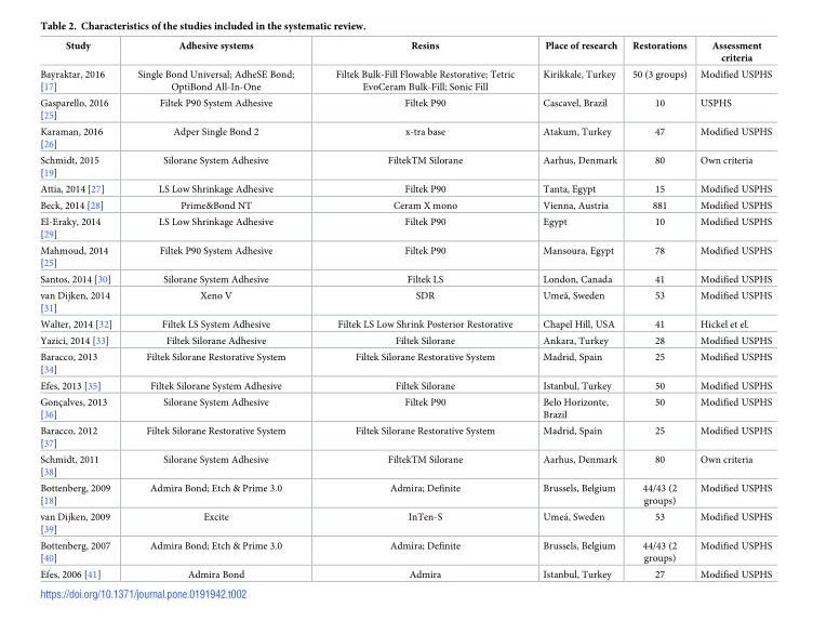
<table><thead><tr><td>Study</td><td>Adhesive systems</td><td>Resins</td><td>Place of research</td><td>Restorations</td><td>Assessment criteria</td></tr></thead><tbody><tr><td>Bayraktar, 2016 [17]</td><td>Single Bond Universal; AdheSE Bond; OptiBond All-In-One</td><td>Filtek Bulk-Fill Flowable Restorative; Tetric EvoCeram Bulk-Fill; Sonic Fill</td><td>Kirikkale, Turkey</td><td>50 (3 groups)</td><td>Modified USPHS</td></tr><tr><td>Gasparello, 2016 [25]</td><td>Filtek P90 System Adhesive</td><td>Filtek P90</td><td>Cascavel, Brazil</td><td>10</td><td>USPHS</td></tr><tr><td>Karaman, 2016 [26]</td><td>Adper Single Bond 2</td><td>x-tra base</td><td>Atakum, Turkey</td><td>47</td><td>Modified USPHS</td></tr><tr><td>Schmidt, 2015 [19]</td><td>Silorane System Adhesive</td><td>FiltekTM Silorane</td><td>Aarhus, Denmark</td><td>80</td><td>Own criteria</td></tr><tr><td>Attia, 2014 [27]</td><td>LS Low Shrinkage Adhesive</td><td>Filtek P90</td><td>Tanta, Egypt</td><td>15</td><td>Modified USPHS</td></tr><tr><td>Beck, 2014 [28]</td><td>Prime&amp;Bond NT</td><td>Ceram X mono</td><td>Vienna, Austria</td><td>881</td><td>Modified USPHS</td></tr><tr><td>El-Eraky, 2014 [29]</td><td>LS Low Shrinkage Adhesive</td><td>Filtek P90</td><td>Egypt</td><td>10</td><td>Modified USPHS</td></tr><tr><td>Mahmoud, 2014 [25]</td><td>Filtek P90 System Adhesive</td><td>Filtek P90</td><td>Mansoura, Egypt</td><td>78</td><td>Modified USPHS</td></tr><tr><td>Santos, 2014 [30]</td><td>Silorane System Adhesive</td><td>Filtek LS</td><td>London, Canada</td><td>41</td><td>Modified USPHS</td></tr><tr><td>van Dijken, 2014 [31]</td><td>Xeno V</td><td>SDR</td><td>Umeå, Sweden</td><td>53</td><td>Modified USPHS</td></tr><tr><td>Walter, 2014 [32]</td><td>Filtek LS System Adhesive</td><td>Filtek LS Low Shrink Posterior Restorative</td><td>Chapel Hill, USA</td><td>41</td><td>Hickel et el.</td></tr><tr><td>Yazici, 2014 [33]</td><td>Filtek Silorane Adhesive</td><td>Filtek Silorane</td><td>Ankara, Turkey</td><td>28</td><td>Modified USPHS</td></tr><tr><td>Baracco, 2013 [34]</td><td>Filtek Silorane Restorative System</td><td>Filtek Silorane Restorative System</td><td>Madrid, Spain</td><td>25</td><td>Modified USPHS</td></tr><tr><td>Efes, 2013 [35]</td><td>Filtek Silorane System Adhesive</td><td>Filtek Silorane</td><td>Istanbul, Turkey</td><td>50</td><td>Modified USPHS</td></tr><tr><td>Gonc¸alves, 2013 [36]</td><td>Silorane System Adhesive</td><td>Filtek P90</td><td>Belo Horizonte, Brazil</td><td>50</td><td>Modified USPHS</td></tr><tr><td>Baracco, 2012 [37]</td><td>Filtek Silorane Restorative System</td><td>Filtek Silorane Restorative System</td><td>Madrid, Spain</td><td>25</td><td>Modified USPHS</td></tr><tr><td>Schmidt, 2011 [38]</td><td>Silorane System Adhesive</td><td>FiltekTM Silorane</td><td>Aarhus, Denmark</td><td>80</td><td>Own criteria</td></tr><tr><td>Bottenberg, 2009 [18]</td><td>Admira Bond; Etch &amp; Prime 3.0</td><td>Admira; Definite</td><td>Brussels, Belgium</td><td>44/43 (2 groups)</td><td>Modified USPHS</td></tr><tr><td>van Dijken, 2009 [39]</td><td>Excite</td><td>InTen-S</td><td>Umea´, Sweden</td><td>53</td><td>Modified USPHS</td></tr><tr><td>Bottenberg, 2007 [40]</td><td>Admira Bond; Etch &amp; Prime 3.0</td><td>Admira; Definite</td><td>Brussels, Belgium</td><td>44/43 (2 groups)</td><td>Modified USPHS</td></tr><tr><td>Efes, 2006 [41]</td><td>Admira Bond</td><td>Admira</td><td>Istanbul, Turkey</td><td>27</td><td>Modified USPHS</td></tr></tbody></table>